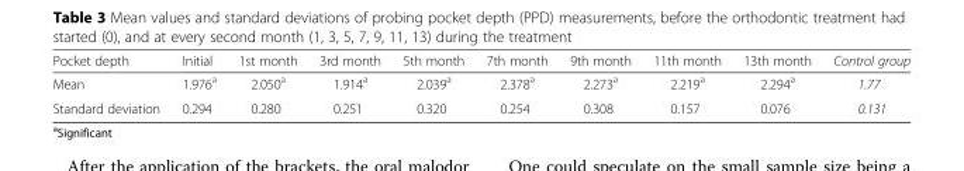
<table><thead><tr><td>Pocket depth</td><td>Initial</td><td>1st month</td><td>3rd month</td><td>5th month</td><td>7th month</td><td>9th month</td><td>11th month</td><td>13th month</td><td>Control group</td></tr></thead><tbody><tr><td>Mean</td><td>1.976<sup>a</sup></td><td>2.050<sup>a</sup></td><td>1.914<sup>a</sup></td><td>2.039<sup>a</sup></td><td>2.378<sup>a</sup></td><td>2.273<sup>a</sup></td><td>2.219<sup>a</sup></td><td>2.294<sup>a</sup></td><td>1.77</td></tr><tr><td>Standard deviation</td><td>0.294</td><td>0.280</td><td>0.251</td><td>0.320</td><td>0.254</td><td>0.308</td><td>0.157</td><td>0.076</td><td>0.131</td></tr></tbody></table>